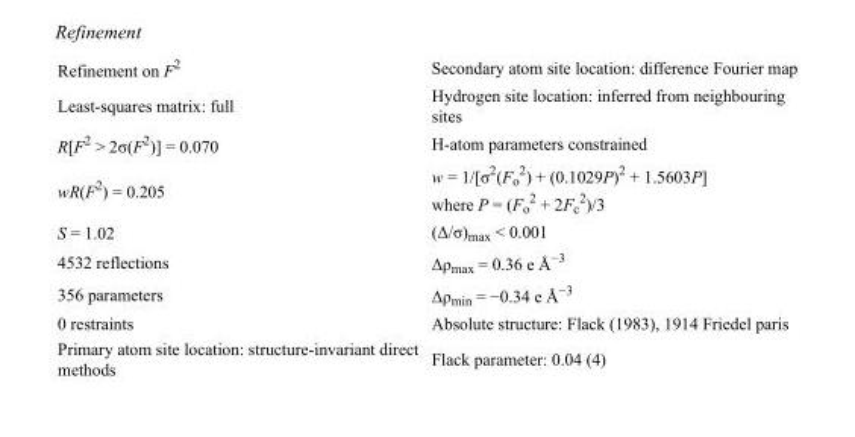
<table><tbody><tr><td>Refinement on F<sup>2</sup></td><td>Secondary atom site location: difference Fourier map</td></tr><tr><td>Least-squares matrix: full</td><td>Hydrogen site location: inferred from neighbouring sites</td></tr><tr><td>R[F<sup>2</sup> &gt; 2σ(F<sup>2</sup>)] = 0.070</td><td>H-atom parameters constrained</td></tr><tr><td>wR(F<sup>2</sup>) = 0.205</td><td>w = 1/[σ<sup>2</sup>(F<sub>o</sub> <sup>2</sup>) + (0.1029P)<sup>2</sup> + 1.5603P] where P = (F<sub>o</sub> <sup>2</sup> + 2F<sub>c</sub> <sup>2</sup>)/3</td></tr><tr><td>S = 1.02</td><td>(Δ/σ)<sub>max</sub> &lt; 0.001</td></tr><tr><td>4532 reflections</td><td>Δρ<sub>max</sub> = 0.36 e Å<sup>−3</sup></td></tr><tr><td>356 parameters</td><td>Δρ<sub>min</sub> = −0.34 e Å<sup>−3</sup></td></tr><tr><td>0 restraints</td><td>Absolute structure: Flack (1983), 1914 Friedel paris</td></tr><tr><td>Primary atom site location: structure-invariant direct methods</td><td>Flack parameter: 0.04 (4)</td></tr></tbody></table>